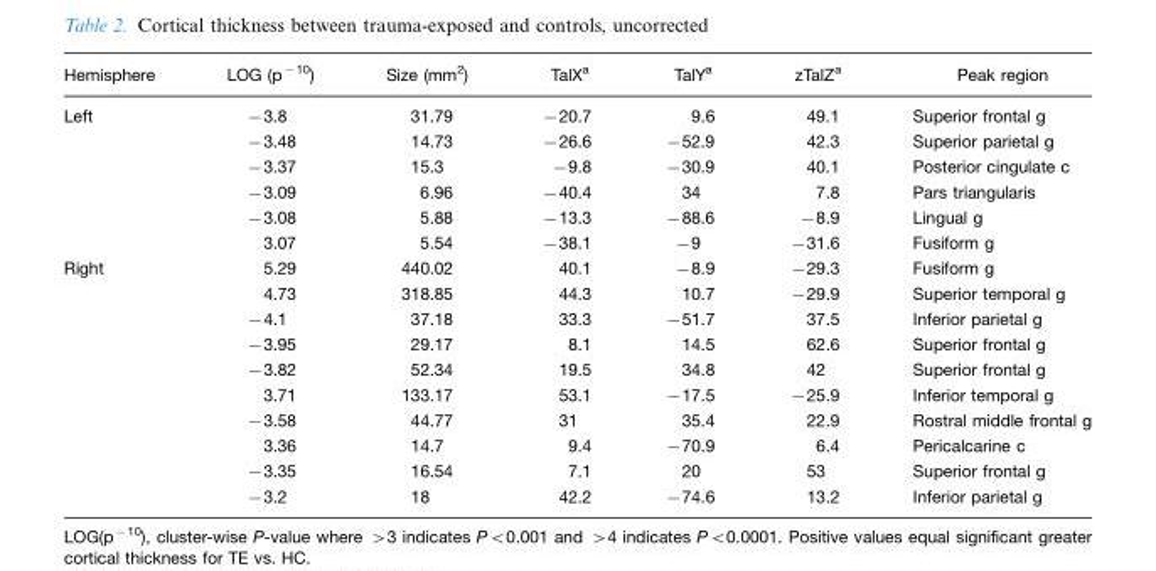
<table><thead><tr><td>Hemisphere</td><td>LOG (p<sup>−10</sup>)</td><td>Size (mm<sup>2</sup>)</td><td>TalX<sup>a</sup></td><td>TalY<sup>a</sup></td><td>zTalZ<sup>a</sup></td><td>Peak region</td></tr></thead><tbody><tr><td rowspan="6">Left</td><td>−3.8</td><td>31.79</td><td>−20.7</td><td>9.6</td><td>49.1</td><td>Superior frontal g</td></tr><tr><td>−3.48</td><td>14.73</td><td>−26.6</td><td>−52.9</td><td>42.3</td><td>Superior parietal g</td></tr><tr><td>−3.37</td><td>15.3</td><td>−9.8</td><td>−30.9</td><td>40.1</td><td>Posterior cingulate c</td></tr><tr><td>−3.09</td><td>6.96</td><td>−40.4</td><td>34</td><td>7.8</td><td>Pars triangularis</td></tr><tr><td>−3.08</td><td>5.88</td><td>−13.3</td><td>−88.6</td><td>−8.9</td><td>Lingual g</td></tr><tr><td>3.07</td><td>5.54</td><td>−38.1</td><td>−9</td><td>−31.6</td><td>Fusiform g</td></tr><tr><td rowspan="10">Right</td><td>5.29</td><td>440.02</td><td>40.1</td><td>−8.9</td><td>−29.3</td><td>Fusiform g</td></tr><tr><td>4.73</td><td>318.85</td><td>44.3</td><td>10.7</td><td>−29.9</td><td>Superior temporal g</td></tr><tr><td>−4.1</td><td>37.18</td><td>33.3</td><td>−51.7</td><td>37.5</td><td>Inferior parietal g</td></tr><tr><td>−3.95</td><td>29.17</td><td>8.1</td><td>14.5</td><td>62.6</td><td>Superior frontal g</td></tr><tr><td>−3.82</td><td>52.34</td><td>19.5</td><td>34.8</td><td>42</td><td>Superior frontal g</td></tr><tr><td>3.71</td><td>133.17</td><td>53.1</td><td>−17.5</td><td>−25.9</td><td>Inferior temporal g</td></tr><tr><td>−3.58</td><td>44.77</td><td>31</td><td>35.4</td><td>22.9</td><td>Rostral middle frontal g</td></tr><tr><td>3.36</td><td>14.7</td><td>9.4</td><td>−70.9</td><td>6.4</td><td>Pericalcarine c</td></tr><tr><td>−3.35</td><td>16.54</td><td>7.1</td><td>20</td><td>53</td><td>Superior frontal g</td></tr><tr><td>−3.2</td><td>18</td><td>42.2</td><td>−74.6</td><td>13.2</td><td>Inferior parietal g</td></tr></tbody></table>